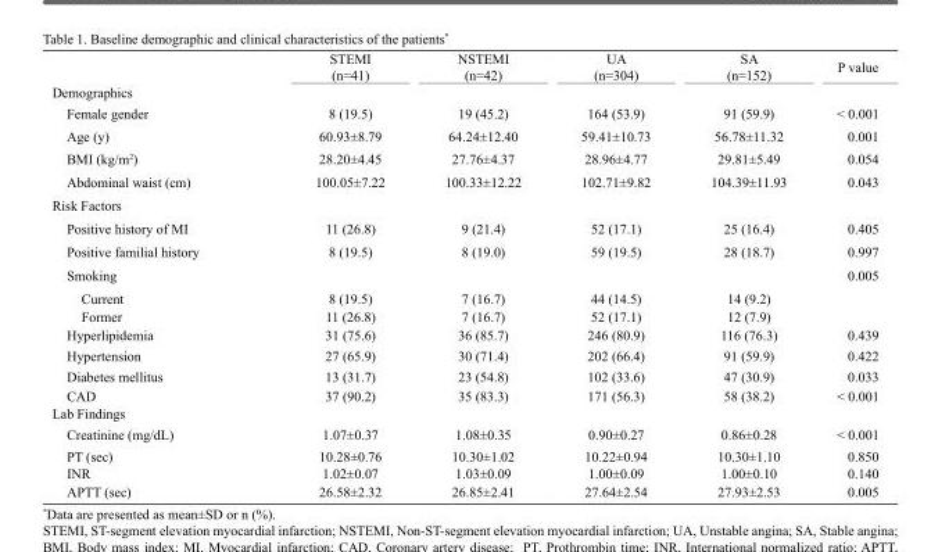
<table><thead><tr><td></td><td>STEMI (n=41)</td><td>NSTEMI (n=42)</td><td>UA (n=304)</td><td>SA (n=152)</td><td>P value</td></tr></thead><tbody><tr><td colspan="6">Demographics</td></tr><tr><td>Female gender</td><td>8 (19.5)</td><td>19 (45.2)</td><td>164 (53.9)</td><td>91 (59.9)</td><td>&lt; 0.001</td></tr><tr><td>Age (y)</td><td>60.93±8.79</td><td>64.24±12.40</td><td>59.41±10.73</td><td>56.78±11.32</td><td>0.001</td></tr><tr><td>BMI (kg/m<sup>2</sup>)</td><td>28.20±4.45</td><td>27.76±4.37</td><td>28.96±4.77</td><td>29.81±5.49</td><td>0.054</td></tr><tr><td>Abdominal waist (cm)</td><td>100.05±7.22</td><td>100.33±12.22</td><td>102.71±9.82</td><td>104.39±11.93</td><td>0.043</td></tr><tr><td colspan="6">Risk Factors</td></tr><tr><td>Positive history of MI</td><td>11 (26.8)</td><td>9 (21.4)</td><td>52 (17.1)</td><td>25 (16.4)</td><td>0.405</td></tr><tr><td>Positive familial history</td><td>8 (19.5)</td><td>8 (19.0)</td><td>59 (19.5)</td><td>28 (18.7)</td><td>0.997</td></tr><tr><td>Smoking</td><td></td><td></td><td></td><td></td><td>0.005</td></tr><tr><td>Current</td><td>8 (19.5)</td><td>7 (16.7)</td><td>44 (14.5)</td><td>14 (9.2)</td><td></td></tr><tr><td>Former</td><td>11 (26.8)</td><td>7 (16.7)</td><td>52 (17.1)</td><td>12 (7.9)</td><td></td></tr><tr><td>Hyperlipidemia</td><td>31 (75.6)</td><td>36 (85.7)</td><td>246 (80.9)</td><td>116 (76.3)</td><td>0.439</td></tr><tr><td>Hypertension</td><td>27 (65.9)</td><td>30 (71.4)</td><td>202 (66.4)</td><td>91 (59.9)</td><td>0.422</td></tr><tr><td>Diabetes mellitus</td><td>13 (31.7)</td><td>23 (54.8)</td><td>102 (33.6)</td><td>47 (30.9)</td><td>0.033</td></tr><tr><td>CAD</td><td>37 (90.2)</td><td>35 (83.3)</td><td>171 (56.3)</td><td>58 (38.2)</td><td>&lt; 0.001</td></tr><tr><td colspan="6">Lab Findings</td></tr><tr><td>Creatinine (mg/dL)</td><td>1.07±0.37</td><td>1.08±0.35</td><td>0.90±0.27</td><td>0.86±0.28</td><td>&lt; 0.001</td></tr><tr><td>PT (sec)</td><td>10.28±0.76</td><td>10.30±1.02</td><td>10.22±0.94</td><td>10.30±1.10</td><td>0.850</td></tr><tr><td>INR</td><td>1.02±0.07</td><td>1.03±0.09</td><td>1.00±0.09</td><td>1.00±0.10</td><td>0.140</td></tr><tr><td>APTT (sec)</td><td>26.58±2.32</td><td>26.85±2.41</td><td>27.64±2.54</td><td>27.93±2.53</td><td>0.005</td></tr></tbody></table>